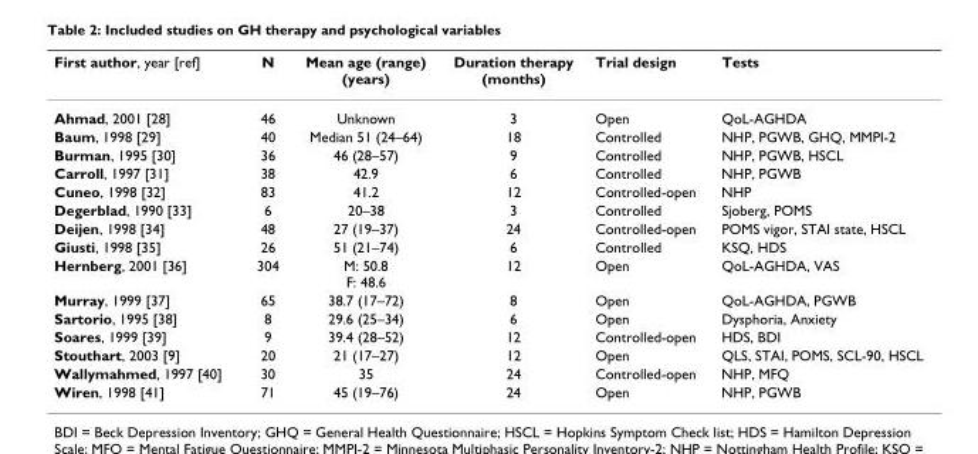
<table><thead><tr><td>First author, year [ref]</td><td>N</td><td>Mean age (range) (years)</td><td>Duration therapy (months)</td><td>Trial design</td><td>Tests</td></tr></thead><tbody><tr><td>Ahmad, 2001 [28]</td><td>46</td><td>Unknown</td><td>3</td><td>Open</td><td>QoL-AGHDA</td></tr><tr><td>Baum, 1998 [29]</td><td>40</td><td>Median 51 (24–64)</td><td>18</td><td>Controlled</td><td>NHP, PGWB, GHQ, MMPI-2</td></tr><tr><td>Burman, 1995 [30]</td><td>36</td><td>46 (28–57)</td><td>9</td><td>Controlled</td><td>NHP, PGWB, HSCL</td></tr><tr><td>Carroll, 1997 [31]</td><td>38</td><td>42.9</td><td>6</td><td>Controlled</td><td>NHP, PGWB</td></tr><tr><td>Cuneo, 1998 [32]</td><td>83</td><td>41.2</td><td>12</td><td>Controlled-open</td><td>NHP</td></tr><tr><td>Degerblad, 1990 [33]</td><td>6</td><td>20–38</td><td>3</td><td>Controlled</td><td>Sjoberg, POMS</td></tr><tr><td>Deijen, 1998 [34]</td><td>48</td><td>27 (19–37)</td><td>24</td><td>Controlled-open</td><td>POMS vigor, STAI state, HSCL</td></tr><tr><td>Giusti, 1998 [35]</td><td>26</td><td>51 (21–74)</td><td>6</td><td>Controlled</td><td>KSQ, HDS</td></tr><tr><td>Hernberg, 2001 [36]</td><td>304</td><td>M: 50.8 F: 48.6</td><td>12</td><td>Open</td><td>QoL-AGHDA, VAS</td></tr><tr><td>Murray, 1999 [37]</td><td>65</td><td>38.7 (17–72)</td><td>8</td><td>Open</td><td>QoL-AGHDA, PGWB</td></tr><tr><td>Sartorio, 1995 [38]</td><td>8</td><td>29.6 (25–34)</td><td>6</td><td>Open</td><td>Dysphoria, Anxiety</td></tr><tr><td>Soares, 1999 [39]</td><td>9</td><td>39.4 (28–52)</td><td>12</td><td>Controlled-open</td><td>HDS, BDI</td></tr><tr><td>Stouthart, 2003 [9]</td><td>20</td><td>21 (17–27)</td><td>12</td><td>Open</td><td>QLS, STAI, POMS, SCL-90, HSCL</td></tr><tr><td>Wallymahmed, 1997 [40]</td><td>30</td><td>35</td><td>24</td><td>Controlled-open</td><td>NHP, MFQ</td></tr><tr><td>Wiren, 1998 [41]</td><td>71</td><td>45 (19–76)</td><td>24</td><td>Open</td><td>NHP, PGWB</td></tr></tbody></table>